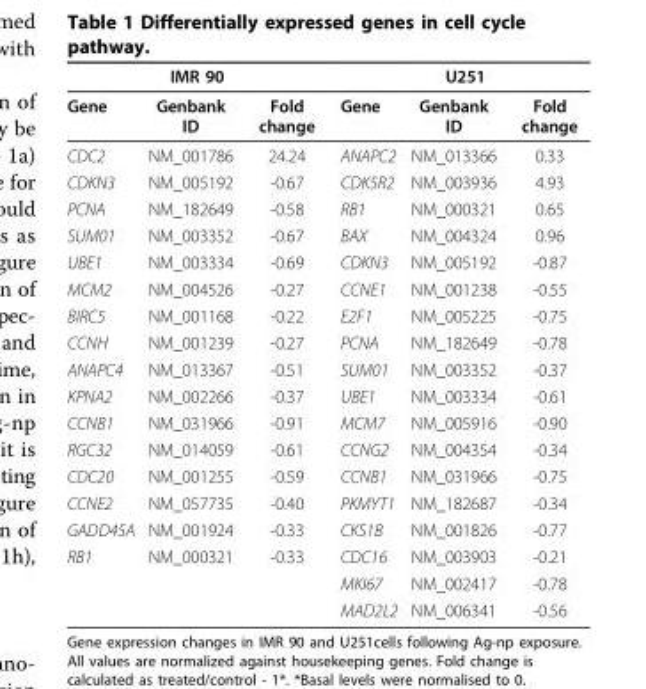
<table><thead><tr><td colspan="3">IMR 90</td><td colspan="3">U251</td></tr><tr><td>Gene</td><td>Genbank ID</td><td>Fold change</td><td>Gene</td><td>Genbank ID</td><td>Fold change</td></tr></thead><tbody><tr><td>CDC2</td><td>NM_001786</td><td>24.24</td><td>ANAPC2</td><td>NM_013366</td><td>0.33</td></tr><tr><td>CDKN3</td><td>NM_005192</td><td>-0.67</td><td>CDK5R2</td><td>NM_003936</td><td>4.93</td></tr><tr><td>PCNA</td><td>NM_182649</td><td>-0.58</td><td>RB1</td><td>NM_000321</td><td>0.65</td></tr><tr><td>SUM01</td><td>NM_003352</td><td>-0.67</td><td>BAX</td><td>NM_004324</td><td>0.96</td></tr><tr><td>UBE1</td><td>NM_003334</td><td>-0.69</td><td>CDKN3</td><td>NM_005192</td><td>-0.87</td></tr><tr><td>MCM2</td><td>NM_004526</td><td>-0.27</td><td>CCNE1</td><td>NM_001238</td><td>-0.55</td></tr><tr><td>BIRC5</td><td>NM_001168</td><td>-0.22</td><td>E2F1</td><td>NM_005225</td><td>-0.75</td></tr><tr><td>CCNH</td><td>NM_001239</td><td>-0.27</td><td>PCNA</td><td>NM_182649</td><td>-0.78</td></tr><tr><td>ANAPC4</td><td>NM_013367</td><td>-0.51</td><td>SUM01</td><td>NM_003352</td><td>-0.37</td></tr><tr><td>KPNA2</td><td>NM_002266</td><td>-0.37</td><td>UBE1</td><td>NM_003334</td><td>-0.61</td></tr><tr><td>CCNB1</td><td>NM_031966</td><td>-0.91</td><td>MCM7</td><td>NM_005916</td><td>-0.90</td></tr><tr><td>RGC32</td><td>NM_014059</td><td>-0.61</td><td>CCNG2</td><td>NM_004354</td><td>-0.34</td></tr><tr><td>CDC20</td><td>NM_001255</td><td>-0.59</td><td>CCNB1</td><td>NM_031966</td><td>-0.75</td></tr><tr><td>CCNE2</td><td>NM_057735</td><td>-0.40</td><td>PKMYT1</td><td>NM_182687</td><td>-0.34</td></tr><tr><td>GADD45A</td><td>NM_001924</td><td>-0.33</td><td>CKS1B</td><td>NM_001826</td><td>-0.77</td></tr><tr><td rowspan="3">RB1</td><td>NM_000321</td><td>-0.33</td><td>CDC16</td><td>NM_003903</td><td>-0.21</td></tr><tr><td></td><td></td><td>MKI67</td><td>NM_002417</td><td>-0.78</td></tr><tr><td></td><td></td><td>MAD2L2</td><td>NM_006341</td><td>-0.56</td></tr></tbody></table>